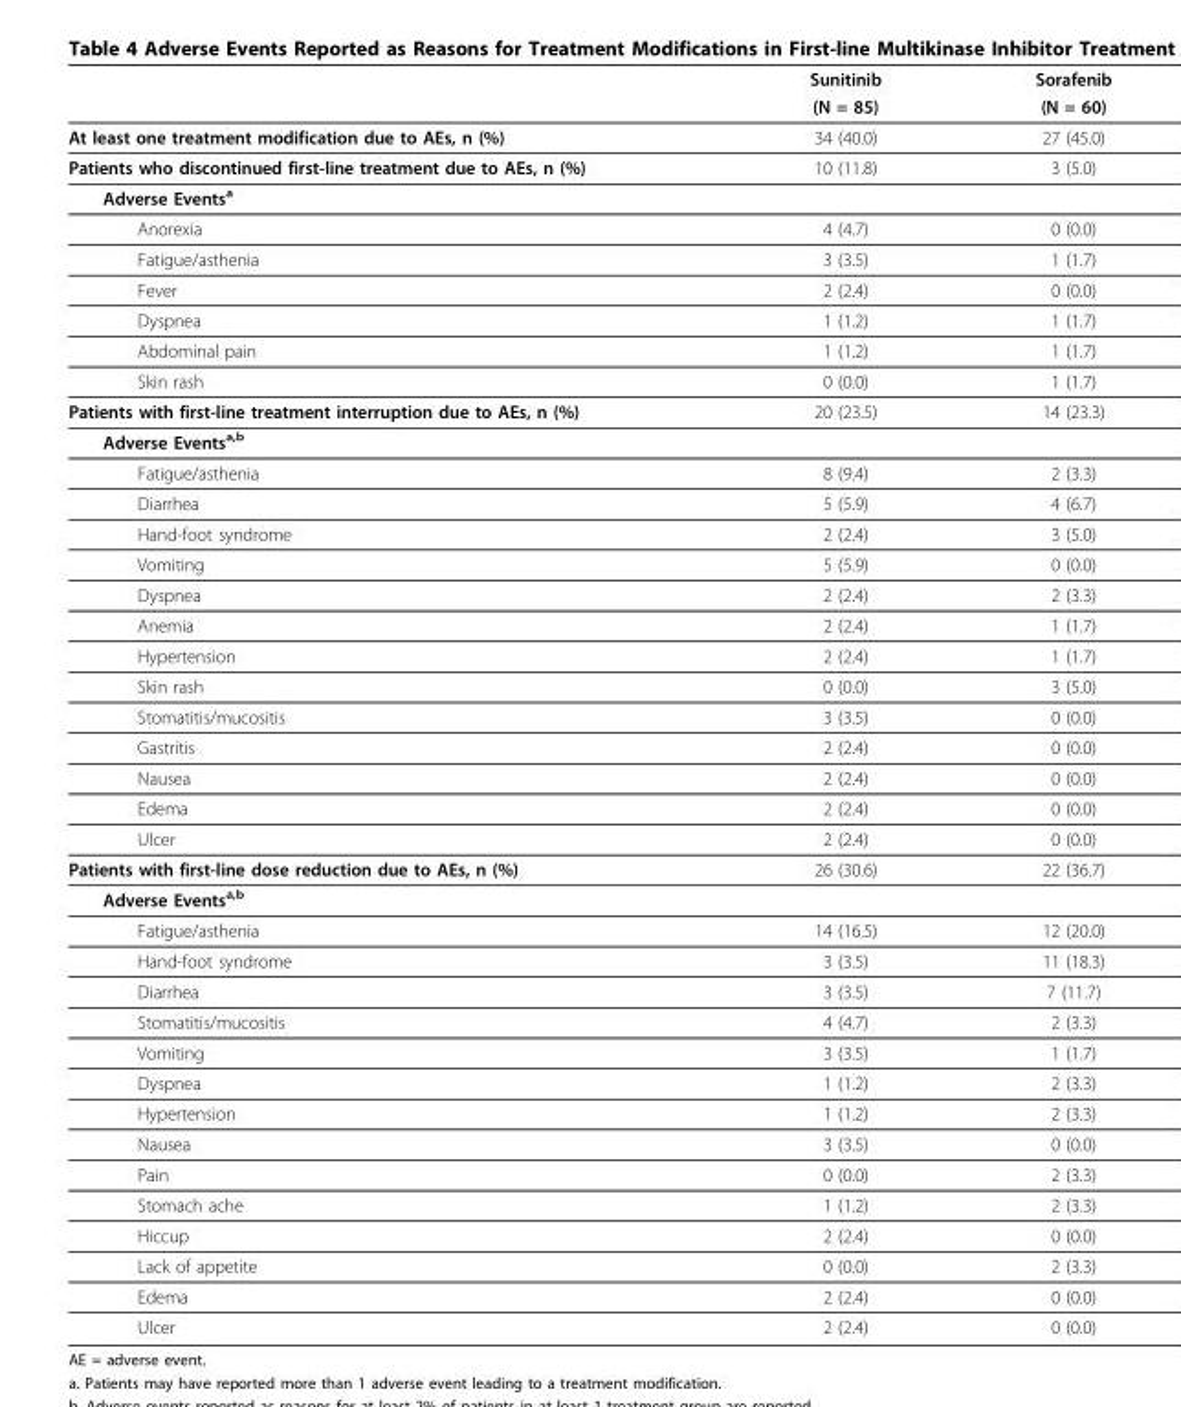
<table><thead><tr><td rowspan="2"></td><td rowspan="2">Sunitinib (N = 85)</td><td rowspan="2">Sorafenib (N = 60)</td></tr><tr></tr></thead><tbody><tr><td>At least one treatment modification due to AEs, n (%)</td><td>34 (40.0)</td><td>27 (45.0)</td></tr><tr><td>Patients who discontinued first-line treatment due to AEs, n (%)</td><td>10 (11.8)</td><td>3 (5.0)</td></tr><tr><td colspan="3">Adverse Eventsa</td></tr><tr><td>Anorexia</td><td>4 (4.7)</td><td>0 (0.0)</td></tr><tr><td>Fatigue/asthenia</td><td>3 (3.5)</td><td>1 (1.7)</td></tr><tr><td>Fever</td><td>2 (2.4)</td><td>0 (0.0)</td></tr><tr><td>Dyspnea</td><td>1 (1.2)</td><td>1 (1.7)</td></tr><tr><td>Abdominal pain</td><td>1 (1.2)</td><td>1 (1.7)</td></tr><tr><td>Skin rash</td><td>0 (0.0)</td><td>1 (1.7)</td></tr><tr><td>Patients with first-line treatment interruption due to AEs, n (%)</td><td>20 (23.5)</td><td>14 (23.3)</td></tr><tr><td colspan="3">Adverse Eventsa,b</td></tr><tr><td>Fatigue/asthenia</td><td>8 (9.4)</td><td>2 (3.3)</td></tr><tr><td>Diarrhea</td><td>5 (5.9)</td><td>4 (6.7)</td></tr><tr><td>Hand-foot syndrome</td><td>2 (2.4)</td><td>3 (5.0)</td></tr><tr><td>Vomiting</td><td>5 (5.9)</td><td>0 (0.0)</td></tr><tr><td>Dyspnea</td><td>2 (2.4)</td><td>2 (3.3)</td></tr><tr><td>Anemia</td><td>2 (2.4)</td><td>1 (1.7)</td></tr><tr><td>Hypertension</td><td>2 (2.4)</td><td>1 (1.7)</td></tr><tr><td>Skin rash</td><td>0 (0.0)</td><td>3 (5.0)</td></tr><tr><td>Stomatitis/mucositis</td><td>3 (3.5)</td><td>0 (0.0)</td></tr><tr><td>Gastritis</td><td>2 (2.4)</td><td>0 (0.0)</td></tr><tr><td>Nausea</td><td>2 (2.4)</td><td>0 (0.0)</td></tr><tr><td>Edema</td><td>2 (2.4)</td><td>0 (0.0)</td></tr><tr><td>Ulcer</td><td>2 (2.4)</td><td>0 (0.0)</td></tr><tr><td>Patients with first-line dose reduction due to AEs, n (%)</td><td>26 (30.6)</td><td>22 (36.7)</td></tr><tr><td colspan="3">Adverse Eventsa,b</td></tr><tr><td>Fatigue/asthenia</td><td>14 (16.5)</td><td>12 (20.0)</td></tr><tr><td>Hand-foot syndrome</td><td>3 (3.5)</td><td>11 (18.3)</td></tr><tr><td>Diarrhea</td><td>3 (3.5)</td><td>7 (11.7)</td></tr><tr><td>Stomatitis/mucositis</td><td>4 (4.7)</td><td>2 (3.3)</td></tr><tr><td>Vomiting</td><td>3 (3.5)</td><td>1 (1.7)</td></tr><tr><td>Dyspnea</td><td>1 (1.2)</td><td>2 (3.3)</td></tr><tr><td>Hypertension</td><td>1 (1.2)</td><td>2 (3.3)</td></tr><tr><td>Nausea</td><td>3 (3.5)</td><td>0 (0.0)</td></tr><tr><td>Pain</td><td>0 (0.0)</td><td>2 (3.3)</td></tr><tr><td>Stomach ache</td><td>1 (1.2)</td><td>2 (3.3)</td></tr><tr><td>Hiccup</td><td>2 (2.4)</td><td>0 (0.0)</td></tr><tr><td>Lack of appetite</td><td>0 (0.0)</td><td>2 (3.3)</td></tr><tr><td>Edema</td><td>2 (2.4)</td><td>0 (0.0)</td></tr><tr><td>Ulcer</td><td>2 (2.4)</td><td>0 (0.0)</td></tr></tbody></table>